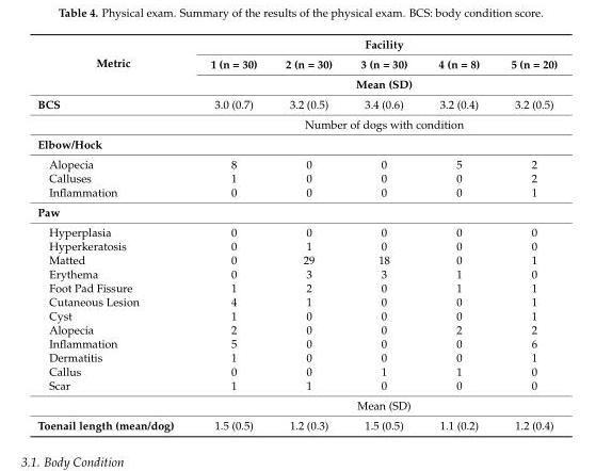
<table><thead><tr><td rowspan="3">Metric</td><td colspan="5">Facility</td></tr><tr><td>1 (n = 30)</td><td>2 (n = 30)</td><td>3 (n = 30)</td><td>4 (n = 8)</td><td>5 (n = 20)</td></tr><tr><td colspan="5">Mean (SD)</td></tr></thead><tbody><tr><td rowspan="2">BCS</td><td>3.0 (0.7)</td><td>3.2 (0.5)</td><td>3.4 (0.6)</td><td>3.2 (0.4)</td><td>3.2 (0.5)</td></tr><tr><td colspan="5">Number of dogs with condition</td></tr><tr><td colspan="6">Elbow/Hock</td></tr><tr><td>Alopecia</td><td>8</td><td>0</td><td>0</td><td>5</td><td>2</td></tr><tr><td>Calluses</td><td>1</td><td>0</td><td>0</td><td>0</td><td>2</td></tr><tr><td>Inflammation</td><td>0</td><td>0</td><td>0</td><td>0</td><td>1</td></tr><tr><td colspan="6">Paw</td></tr><tr><td>Hyperplasia</td><td>0</td><td>0</td><td>0</td><td>0</td><td>0</td></tr><tr><td>Hyperkeratosis</td><td>0</td><td>1</td><td>0</td><td>0</td><td>0</td></tr><tr><td>Matted</td><td>0</td><td>29</td><td>18</td><td>0</td><td>1</td></tr><tr><td>Erythema</td><td>0</td><td>3</td><td>3</td><td>1</td><td>0</td></tr><tr><td>Foot Pad Fissure</td><td>1</td><td>2</td><td>0</td><td>1</td><td>1</td></tr><tr><td>Cutaneous Lesion</td><td>4</td><td>1</td><td>0</td><td>0</td><td>1</td></tr><tr><td>Cyst</td><td>1</td><td>0</td><td>0</td><td>0</td><td>1</td></tr><tr><td>Alopecia</td><td>2</td><td>0</td><td>0</td><td>2</td><td>2</td></tr><tr><td>Inflammation</td><td>5</td><td>0</td><td>0</td><td>0</td><td>6</td></tr><tr><td>Dermatitis</td><td>1</td><td>0</td><td>0</td><td>0</td><td>1</td></tr><tr><td>Callus</td><td>0</td><td>0</td><td>1</td><td>1</td><td>0</td></tr><tr><td rowspan="2">Scar</td><td>1</td><td>1</td><td>0</td><td>0</td><td>0</td></tr><tr><td colspan="5">Mean (SD)</td></tr><tr><td>Toenail length (mean/dog)</td><td>1.5 (0.5)</td><td>1.2 (0.3)</td><td>1.5 (0.5)</td><td>1.1 (0.2)</td><td>1.2 (0.4)</td></tr></tbody></table>